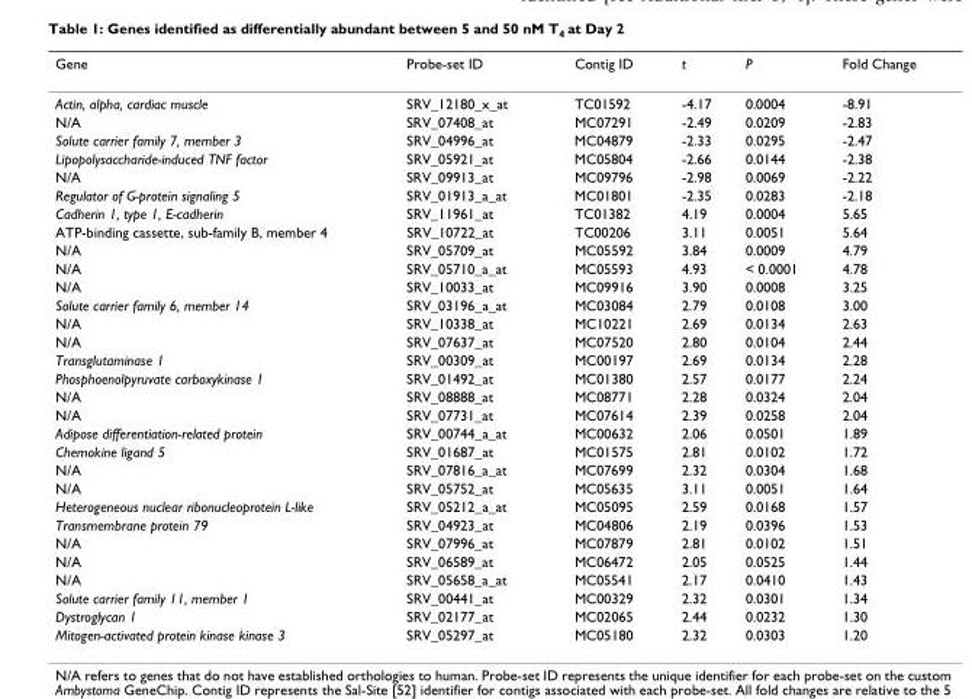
<table><thead><tr><td>Gene</td><td>Probe-set ID</td><td>Contig ID</td><td>t</td><td>P</td><td>Fold Change</td></tr></thead><tbody><tr><td>Actin, alpha, cardiac muscle</td><td>SRV_12180_x_at</td><td>TC01592</td><td>-4.17</td><td>0.0004</td><td>-8.91</td></tr><tr><td>N/A</td><td>SRV_07408_at</td><td>MC07291</td><td>-2.49</td><td>0.0209</td><td>-2.83</td></tr><tr><td>Solute carrier family 7, member 3</td><td>SRV_04996_at</td><td>MC04879</td><td>-2.33</td><td>0.0295</td><td>-2.47</td></tr><tr><td>Lipopolysaccharide-induced TNF factor</td><td>SRV_05921_at</td><td>MC05804</td><td>-2.66</td><td>0.0144</td><td>-2.38</td></tr><tr><td>N/A</td><td>SRV_09913_at</td><td>MC09796</td><td>-2.98</td><td>0.0069</td><td>-2.22</td></tr><tr><td>Regulator of G-protein signaling 5</td><td>SRV_01913_a_at</td><td>MC01801</td><td>-2.35</td><td>0.0283</td><td>-2.18</td></tr><tr><td>Cadherin 1, type 1, E-cadherin</td><td>SRV_11961_at</td><td>TC01382</td><td>4.19</td><td>0.0004</td><td>5.65</td></tr><tr><td>ATP-binding cassette, sub-family B, member 4</td><td>SRV_10722_at</td><td>TC00206</td><td>3.11</td><td>0.0051</td><td>5.64</td></tr><tr><td>N/A</td><td>SRV_05709_at</td><td>MC05592</td><td>3.84</td><td>0.0009</td><td>4.79</td></tr><tr><td>N/A</td><td>SRV_05710_a_at</td><td>MC05593</td><td>4.93</td><td>&lt; 0.0001</td><td>4.78</td></tr><tr><td>N/A</td><td>SRV_10033_at</td><td>MC09916</td><td>3.90</td><td>0.0008</td><td>3.25</td></tr><tr><td>Solute carrier family 6, member 14</td><td>SRV_03196_a_at</td><td>MC03084</td><td>2.79</td><td>0.0108</td><td>3.00</td></tr><tr><td>N/A</td><td>SRV_10338_at</td><td>MC10221</td><td>2.69</td><td>0.0134</td><td>2.63</td></tr><tr><td>N/A</td><td>SRV_07637_at</td><td>MC07520</td><td>2.80</td><td>0.0104</td><td>2.44</td></tr><tr><td>Transglutaminase 1</td><td>SRV_00309_at</td><td>MC00197</td><td>2.69</td><td>0.0134</td><td>2.28</td></tr><tr><td>Phosphoenolpyruvate carboxykinase 1</td><td>SRV_01492_at</td><td>MC01380</td><td>2.57</td><td>0.0177</td><td>2.24</td></tr><tr><td>N/A</td><td>SRV_08888_at</td><td>MC08771</td><td>2.28</td><td>0.0324</td><td>2.04</td></tr><tr><td>N/A</td><td>SRV_07731_at</td><td>MC07614</td><td>2.39</td><td>0.0258</td><td>2.04</td></tr><tr><td>Adipose differentiation-related protein</td><td>SRV_00744_a_at</td><td>MC00632</td><td>2.06</td><td>0.0501</td><td>1.89</td></tr><tr><td>Chemokine ligand 5</td><td>SRV_01687_at</td><td>MC01575</td><td>2.81</td><td>0.0102</td><td>1.72</td></tr><tr><td>N/A</td><td>SRV_07816_a_at</td><td>MC07699</td><td>2.32</td><td>0.0304</td><td>1.68</td></tr><tr><td>N/A</td><td>SRV_05752_at</td><td>MC05635</td><td>3.11</td><td>0.0051</td><td>1.64</td></tr><tr><td>Heterogeneous nuclear ribonucleoprotein L-like</td><td>SRV_05212_a_at</td><td>MC05095</td><td>2.59</td><td>0.0168</td><td>1.57</td></tr><tr><td>Transmembrane protein 79</td><td>SRV_04923_at</td><td>MC04806</td><td>2.19</td><td>0.0396</td><td>1.53</td></tr><tr><td>N/A</td><td>SRV_07996_at</td><td>MC07879</td><td>2.81</td><td>0.0102</td><td>1.51</td></tr><tr><td>N/A</td><td>SRV_06589_at</td><td>MC06472</td><td>2.05</td><td>0.0525</td><td>1.44</td></tr><tr><td>N/A</td><td>SRV_05658_a_at</td><td>MC05541</td><td>2.17</td><td>0.0410</td><td>1.43</td></tr><tr><td>Solute carrier family 11, member 1</td><td>SRV_00441_at</td><td>MC00329</td><td>2.32</td><td>0.0301</td><td>1.34</td></tr><tr><td>Dystroglycan 1</td><td>SRV_02177_at</td><td>MC02065</td><td>2.44</td><td>0.0232</td><td>1.30</td></tr><tr><td>Mitogen-activated protein kinase kinase 3</td><td>SRV_05297_at</td><td>MC05180</td><td>2.32</td><td>0.0303</td><td>1.20</td></tr></tbody></table>